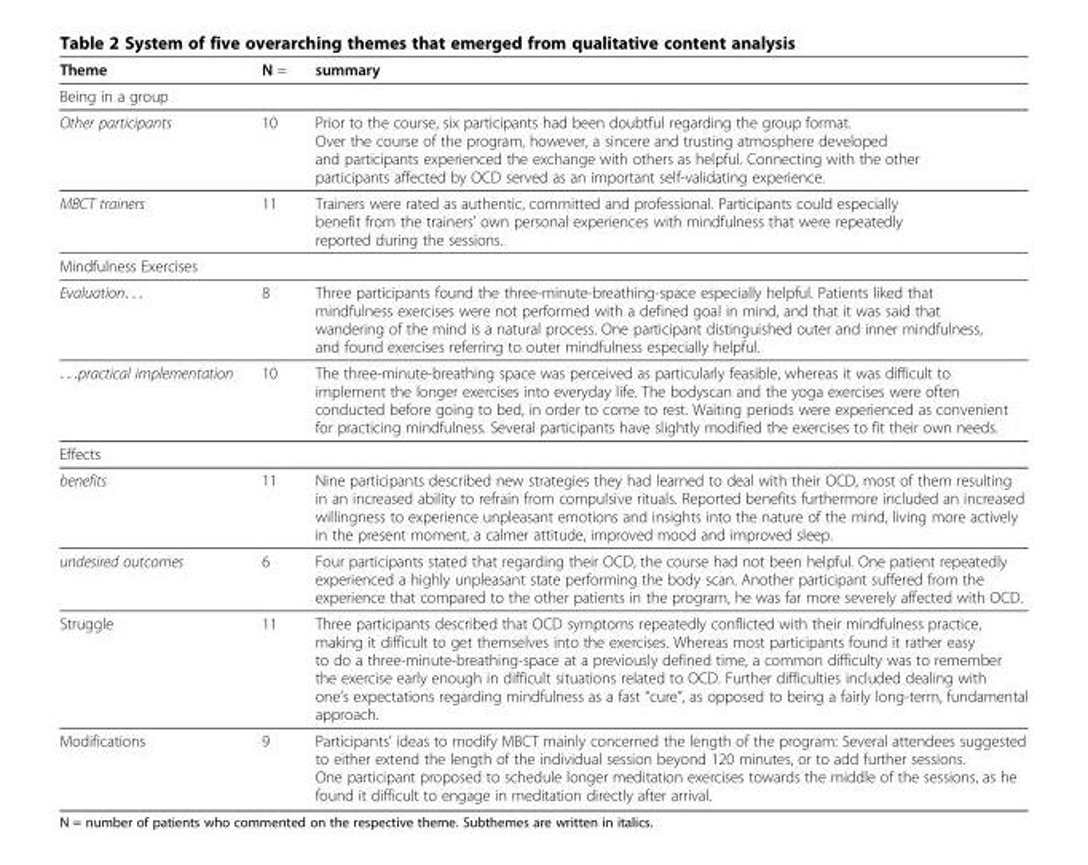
<table><thead><tr><td>Theme</td><td>N =</td><td>summary</td></tr></thead><tbody><tr><td colspan="3">Being in a group</td></tr><tr><td>Other participants</td><td>10</td><td>Prior to the course, six participants had been doubtful regarding the group format. Over the course of the program, however, a sincere and trusting atmosphere developed and participants experienced the exchange with others as helpful. Connecting with the other participants affected by OCD served as an important self-validating experience.</td></tr><tr><td>MBCT trainers</td><td>11</td><td>Trainers were rated as authentic, committed and professional. Participants could especially benefit from the trainers’ own personal experiences with mindfulness that were repeatedly reported during the sessions.</td></tr><tr><td colspan="3">Mindfulness Exercises</td></tr><tr><td>Evaluation. . .</td><td>8</td><td>Three participants found the three-minute-breathing-space especially helpful. Patients liked that mindfulness exercises were not performed with a defined goal in mind, and that it was said that wandering of the mind is a natural process. One participant distinguished outer and inner mindfulness, and found exercises referring to outer mindfulness especially helpful.</td></tr><tr><td>. . .practical implementation</td><td>10</td><td>The three-minute-breathing space was perceived as particularly feasible, whereas it was difficult to implement the longer exercises into everyday life. The bodyscan and the yoga exercises were often conducted before going to bed, in order to come to rest. Waiting periods were experienced as convenient for practicing mindfulness. Several participants have slightly modified the exercises to fit their own needs.</td></tr><tr><td colspan="3">Effects</td></tr><tr><td>benefits</td><td>11</td><td>Nine participants described new strategies they had learned to deal with their OCD, most of them resulting in an increased ability to refrain from compulsive rituals. Reported benefits furthermore included an increased willingness to experience unpleasant emotions and insights into the nature of the mind, living more actively in the present moment, a calmer attitude, improved mood and improved sleep.</td></tr><tr><td>undesired outcomes</td><td>6</td><td>Four participants stated that regarding their OCD, the course had not been helpful. One patient repeatedly experienced a highly unpleasant state performing the body scan. Another participant suffered from the experience that compared to the other patients in the program, he was far more severely affected with OCD.</td></tr><tr><td>Struggle</td><td>11</td><td>Three participants described that OCD symptoms repeatedly conflicted with their mindfulness practice, making it difficult to get themselves into the exercises. Whereas most participants found it rather easy to do a three-minute-breathing-space at a previously defined time, a common difficulty was to remember the exercise early enough in difficult situations related to OCD. Further difficulties included dealing with one’s expectations regarding mindfulness as a fast “cure”, as opposed to being a fairly long-term, fundamental approach.</td></tr><tr><td>Modifications</td><td>9</td><td>Participants’ ideas to modify MBCT mainly concerned the length of the program: Several attendees suggested to either extend the length of the individual session beyond 120 minutes, or to add further sessions. One participant proposed to schedule longer meditation exercises towards the middle of the sessions, as he found it difficult to engage in meditation directly after arrival.</td></tr></tbody></table>